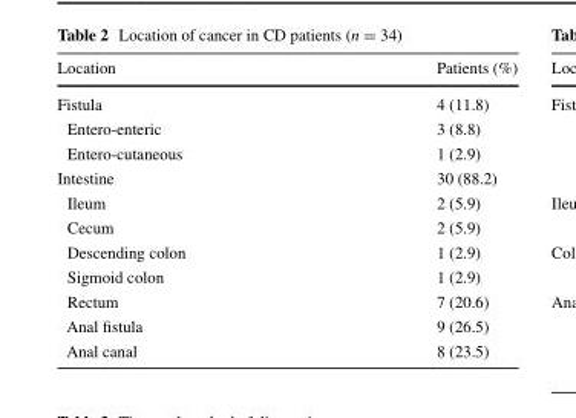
<table><thead><tr><td>Location</td><td>Patients (%)</td></tr></thead><tbody><tr><td>Fistula</td><td>4 (11.8)</td></tr><tr><td>Entero-enteric</td><td>3 (8.8)</td></tr><tr><td>Entero-cutaneous</td><td>1 (2.9)</td></tr><tr><td>Intestine</td><td>30 (88.2)</td></tr><tr><td>Ileum</td><td>2 (5.9)</td></tr><tr><td>Cecum</td><td>2 (5.9)</td></tr><tr><td>Descending colon</td><td>1 (2.9)</td></tr><tr><td>Sigmoid colon</td><td>1 (2.9)</td></tr><tr><td>Rectum</td><td>7 (20.6)</td></tr><tr><td>Anal fistula</td><td>9 (26.5)</td></tr><tr><td>Anal canal</td><td>8 (23.5)</td></tr></tbody></table>